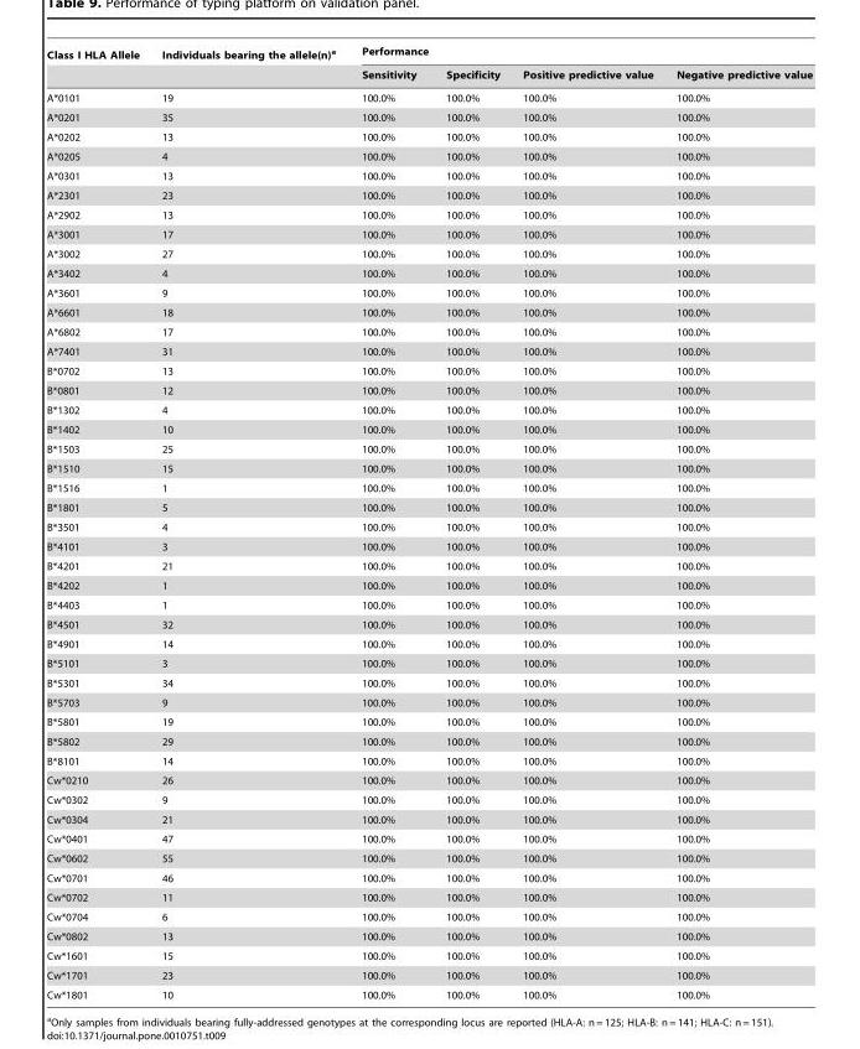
<table><thead><tr><td rowspan="2">Class I HLA Allele</td><td rowspan="2">Individuals bearing the allele(n)<sup>a</sup></td><td colspan="4">Performance</td></tr><tr><td>Sensitivity</td><td>Specificity</td><td>Positive predictive value</td><td>Negative predictive value</td></tr></thead><tbody><tr><td>A*0101</td><td>19</td><td>100.0%</td><td>100.0%</td><td>100.0%</td><td>100.0%</td></tr><tr><td>A*0201</td><td>35</td><td>100.0%</td><td>100.0%</td><td>100.0%</td><td>100.0%</td></tr><tr><td>A*0202</td><td>13</td><td>100.0%</td><td>100.0%</td><td>100.0%</td><td>100.0%</td></tr><tr><td>A*0205</td><td>4</td><td>100.0%</td><td>100.0%</td><td>100.0%</td><td>100.0%</td></tr><tr><td>A*0301</td><td>13</td><td>100.0%</td><td>100.0%</td><td>100.0%</td><td>100.0%</td></tr><tr><td>A*2301</td><td>23</td><td>100.0%</td><td>100.0%</td><td>100.0%</td><td>100.0%</td></tr><tr><td>A*2902</td><td>13</td><td>100.0%</td><td>100.0%</td><td>100.0%</td><td>100.0%</td></tr><tr><td>A*3001</td><td>17</td><td>100.0%</td><td>100.0%</td><td>100.0%</td><td>100.0%</td></tr><tr><td>A*3002</td><td>27</td><td>100.0%</td><td>100.0%</td><td>100.0%</td><td>100.0%</td></tr><tr><td>A*3402</td><td>4</td><td>100.0%</td><td>100.0%</td><td>100.0%</td><td>100.0%</td></tr><tr><td>A*3601</td><td>9</td><td>100.0%</td><td>100.0%</td><td>100.0%</td><td>100.0%</td></tr><tr><td>A*6601</td><td>18</td><td>100.0%</td><td>100.0%</td><td>100.0%</td><td>100.0%</td></tr><tr><td>A*6802</td><td>17</td><td>100.0%</td><td>100.0%</td><td>100.0%</td><td>100.0%</td></tr><tr><td>A*7401</td><td>31</td><td>100.0%</td><td>100.0%</td><td>100.0%</td><td>100.0%</td></tr><tr><td>B*0702</td><td>13</td><td>100.0%</td><td>100.0%</td><td>100.0%</td><td>100.0%</td></tr><tr><td>B*0801</td><td>12</td><td>100.0%</td><td>100.0%</td><td>100.0%</td><td>100.0%</td></tr><tr><td>B*1302</td><td>4</td><td>100.0%</td><td>100.0%</td><td>100.0%</td><td>100.0%</td></tr><tr><td>B*1402</td><td>10</td><td>100.0%</td><td>100.0%</td><td>100.0%</td><td>100.0%</td></tr><tr><td>B*1503</td><td>25</td><td>100.0%</td><td>100.0%</td><td>100.0%</td><td>100.0%</td></tr><tr><td>B*1510</td><td>15</td><td>100.0%</td><td>100.0%</td><td>100.0%</td><td>100.0%</td></tr><tr><td>B*1516</td><td>1</td><td>100.0%</td><td>100.0%</td><td>100.0%</td><td>100.0%</td></tr><tr><td>B*1801</td><td>5</td><td>100.0%</td><td>100.0%</td><td>100.0%</td><td>100.0%</td></tr><tr><td>B*3501</td><td>4</td><td>100.0%</td><td>100.0%</td><td>100.0%</td><td>100.0%</td></tr><tr><td>B*4101</td><td>3</td><td>100.0%</td><td>100.0%</td><td>100.0%</td><td>100.0%</td></tr><tr><td>B*4201</td><td>21</td><td>100.0%</td><td>100.0%</td><td>100.0%</td><td>100.0%</td></tr><tr><td>B*4202</td><td>1</td><td>100.0%</td><td>100.0%</td><td>100.0%</td><td>100.0%</td></tr><tr><td>B*4403</td><td>1</td><td>100.0%</td><td>100.0%</td><td>100.0%</td><td>100.0%</td></tr><tr><td>B*4501</td><td>32</td><td>100.0%</td><td>100.0%</td><td>100.0%</td><td>100.0%</td></tr><tr><td>B*4901</td><td>14</td><td>100.0%</td><td>100.0%</td><td>100.0%</td><td>100.0%</td></tr><tr><td>B*5101</td><td>3</td><td>100.0%</td><td>100.0%</td><td>100.0%</td><td>100.0%</td></tr><tr><td>B*5301</td><td>34</td><td>100.0%</td><td>100.0%</td><td>100.0%</td><td>100.0%</td></tr><tr><td>B*5703</td><td>9</td><td>100.0%</td><td>100.0%</td><td>100.0%</td><td>100.0%</td></tr><tr><td>B*5801</td><td>19</td><td>100.0%</td><td>100.0%</td><td>100.0%</td><td>100.0%</td></tr><tr><td>B*5802</td><td>29</td><td>100.0%</td><td>100.0%</td><td>100.0%</td><td>100.0%</td></tr><tr><td>B*8101</td><td>14</td><td>100.0%</td><td>100.0%</td><td>100.0%</td><td>100.0%</td></tr><tr><td>Cw*0210</td><td>26</td><td>100.0%</td><td>100.0%</td><td>100.0%</td><td>100.0%</td></tr><tr><td>Cw*0302</td><td>9</td><td>100.0%</td><td>100.0%</td><td>100.0%</td><td>100.0%</td></tr><tr><td>Cw*0304</td><td>21</td><td>100.0%</td><td>100.0%</td><td>100.0%</td><td>100.0%</td></tr><tr><td>Cw*0401</td><td>47</td><td>100.0%</td><td>100.0%</td><td>100.0%</td><td>100.0%</td></tr><tr><td>Cw*0602</td><td>55</td><td>100.0%</td><td>100.0%</td><td>100.0%</td><td>100.0%</td></tr><tr><td>Cw*0701</td><td>46</td><td>100.0%</td><td>100.0%</td><td>100.0%</td><td>100.0%</td></tr><tr><td>Cw*0702</td><td>11</td><td>100.0%</td><td>100.0%</td><td>100.0%</td><td>100.0%</td></tr><tr><td>Cw*0704</td><td>6</td><td>100.0%</td><td>100.0%</td><td>100.0%</td><td>100.0%</td></tr><tr><td>Cw*0802</td><td>13</td><td>100.0%</td><td>100.0%</td><td>100.0%</td><td>100.0%</td></tr><tr><td>Cw*1601</td><td>15</td><td>100.0%</td><td>100.0%</td><td>100.0%</td><td>100.0%</td></tr><tr><td>Cw*1701</td><td>23</td><td>100.0%</td><td>100.0%</td><td>100.0%</td><td>100.0%</td></tr><tr><td>Cw*1801</td><td>10</td><td>100.0%</td><td>100.0%</td><td>100.0%</td><td>100.0%</td></tr></tbody></table>